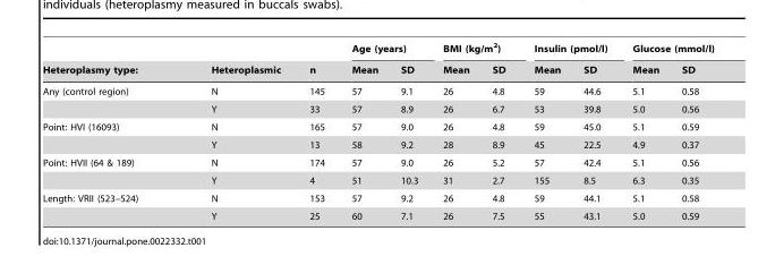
<table><thead><tr><td rowspan="2">Heteroplasmy type:</td><td rowspan="2">Heteroplasmic</td><td rowspan="2">n</td><td colspan="2">Age (years)</td><td colspan="2">BMI (kg/m<sup>2</sup>)</td><td colspan="2">Insulin (pmol/l)</td><td colspan="2">Glucose (mmol/l)</td></tr><tr><td>Mean</td><td>SD</td><td>Mean</td><td>SD</td><td>Mean</td><td>SD</td><td>Mean</td><td>SD</td></tr></thead><tbody><tr><td rowspan="2">Any (control region)</td><td>N</td><td>145</td><td>57</td><td>9.1</td><td>26</td><td>4.8</td><td>59</td><td>44.6</td><td>5.1</td><td>0.58</td></tr><tr><td>Y</td><td>33</td><td>57</td><td>8.9</td><td>26</td><td>6.7</td><td>53</td><td>39.8</td><td>5.0</td><td>0.56</td></tr><tr><td rowspan="2">Point: HVI (16093)</td><td>N</td><td>165</td><td>57</td><td>9.0</td><td>26</td><td>4.8</td><td>59</td><td>45.0</td><td>5.1</td><td>0.59</td></tr><tr><td>Y</td><td>13</td><td>58</td><td>9.2</td><td>28</td><td>8.9</td><td>45</td><td>22.5</td><td>4.9</td><td>0.37</td></tr><tr><td rowspan="2">Point: HVII (64 &amp; 189)</td><td>N</td><td>174</td><td>57</td><td>9.0</td><td>26</td><td>5.2</td><td>57</td><td>42.4</td><td>5.1</td><td>0.56</td></tr><tr><td>Y</td><td>4</td><td>51</td><td>10.3</td><td>31</td><td>2.7</td><td>155</td><td>8.5</td><td>6.3</td><td>0.35</td></tr><tr><td rowspan="2">Length: VRII (523–524)</td><td>N</td><td>153</td><td>57</td><td>9.2</td><td>26</td><td>4.8</td><td>59</td><td>44.1</td><td>5.1</td><td>0.58</td></tr><tr><td>Y</td><td>25</td><td>60</td><td>7.1</td><td>26</td><td>7.5</td><td>55</td><td>43.1</td><td>5.0</td><td>0.59</td></tr></tbody></table>